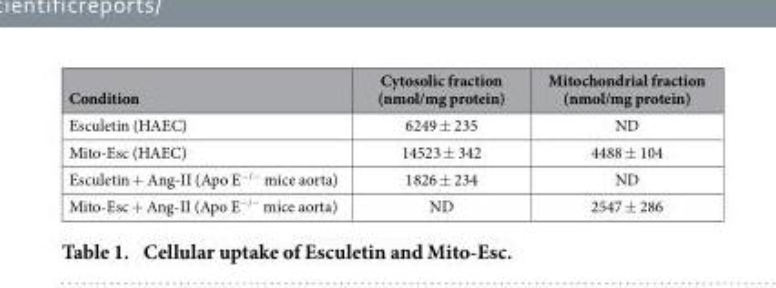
<table><thead><tr><td>Condition</td><td>Cytosolic fraction (nmol/mg protein)</td><td>Mitochondrial fraction (nmol/mg protein)</td></tr></thead><tbody><tr><td>Esculetin (HAEC)</td><td>6249 ± 235</td><td>ND</td></tr><tr><td>Mito-Esc (HAEC)</td><td>14523 ± 342</td><td>4488 ± 104</td></tr><tr><td>Esculetin + Ang-II (Apo E<sup>−/−</sup> mice aorta)</td><td>1826 ± 234</td><td>ND</td></tr><tr><td>Mito-Esc + Ang-II (Apo E<sup>−/−</sup> mice aorta)</td><td>ND</td><td>2547 ± 286</td></tr></tbody></table>